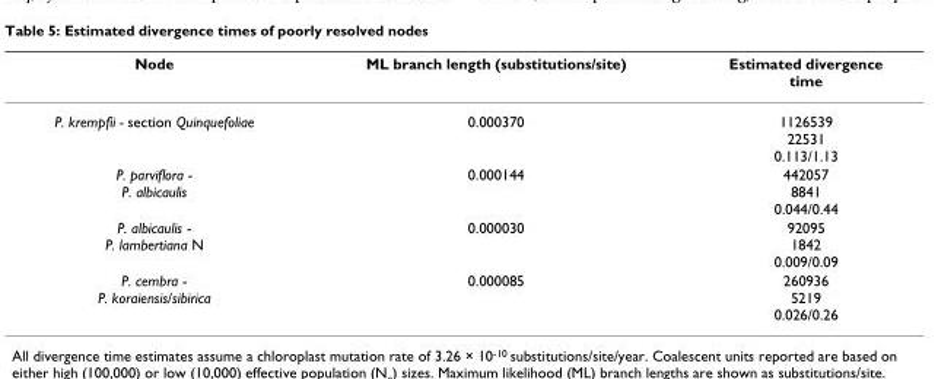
<table><thead><tr><td>Node</td><td>ML branch length (substitutions/site)</td><td>Estimated divergence time</td></tr></thead><tbody><tr><td>P. krempfii - section Quinquefoliae</td><td>0.000370</td><td>1126539 22531 0.113/1.13</td></tr><tr><td>P. parviflora - P. albicaulis</td><td>0.000144</td><td>442057 8841 0.044/0.44</td></tr><tr><td>P. albicaulis - P. lambertiana N</td><td>0.000030</td><td>92095 1842 0.009/0.09</td></tr><tr><td>P. cembra - P. koraiensis/sibirica</td><td>0.000085</td><td>260936 5219 0.026/0.26</td></tr></tbody></table>